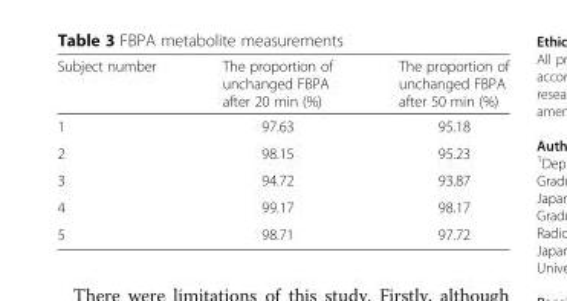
<table><thead><tr><td>Subject number</td><td>The proportion of unchanged FBPA after 20 min (%)</td><td>The proportion of unchanged FBPA after 50 min (%)</td></tr></thead><tbody><tr><td>1</td><td>97.63</td><td>95.18</td></tr><tr><td>2</td><td>98.15</td><td>95.23</td></tr><tr><td>3</td><td>94.72</td><td>93.87</td></tr><tr><td>4</td><td>99.17</td><td>98.17</td></tr><tr><td>5</td><td>98.71</td><td>97.72</td></tr></tbody></table>